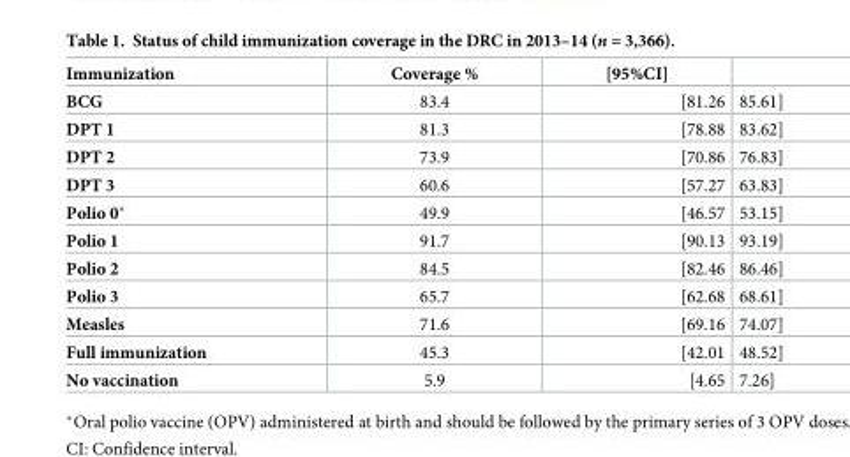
<table><thead><tr><td>Immunization</td><td>Coverage %</td><td>[95%CI]</td><td></td></tr></thead><tbody><tr><td>BCG</td><td>83.4</td><td>[81.26</td><td>85.61]</td></tr><tr><td>DPT 1</td><td>81.3</td><td>[78.88</td><td>83.62]</td></tr><tr><td>DPT 2</td><td>73.9</td><td>[70.86</td><td>76.83]</td></tr><tr><td>DPT 3</td><td>60.6</td><td>[57.27</td><td>63.83]</td></tr><tr><td>Polio 0*</td><td>49.9</td><td>[46.57</td><td>53.15]</td></tr><tr><td>Polio 1</td><td>91.7</td><td>[90.13</td><td>93.19]</td></tr><tr><td>Polio 2</td><td>84.5</td><td>[82.46</td><td>86.46]</td></tr><tr><td>Polio 3</td><td>65.7</td><td>[62.68</td><td>68.61]</td></tr><tr><td>Measles</td><td>71.6</td><td>[69.16</td><td>74.07]</td></tr><tr><td>Full immunization</td><td>45.3</td><td>[42.01</td><td>48.52]</td></tr><tr><td>No vaccination</td><td>5.9</td><td>[4.65</td><td>7.26]</td></tr></tbody></table>